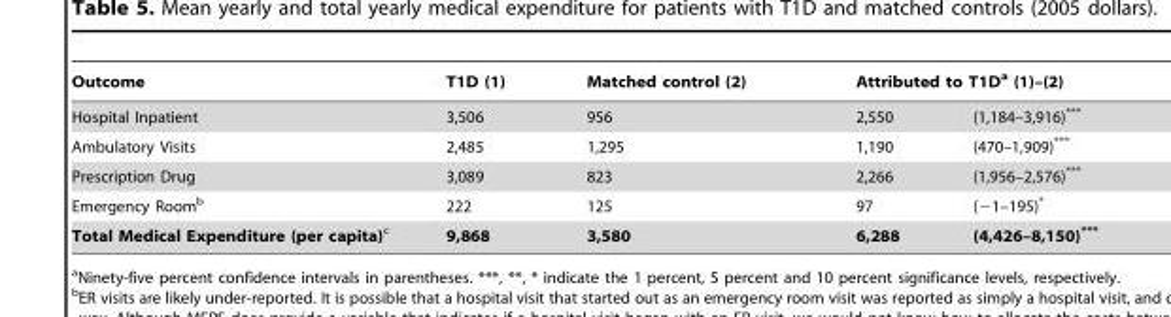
<table><thead><tr><td rowspan="2">Outcome Hospital Inpatient</td><td rowspan="2">T1D (1) 3,506</td><td rowspan="2">Matched control (2) 956</td><td colspan="2">Attributed to T1D<sup>a</sup> (1)–(2)</td></tr><tr><td>2,550</td><td>(1,184–3,916)***</td></tr></thead><tbody><tr><td>Ambulatory Visits</td><td>2,485</td><td>1,295</td><td>1,190</td><td>(470–1,909)***</td></tr><tr><td>Prescription Drug</td><td>3,089</td><td>823</td><td>2,266</td><td>(1,956–2,576)***</td></tr><tr><td>Emergency Room<sup>b</sup></td><td>222</td><td>125</td><td>97</td><td>(−1–195)*</td></tr><tr><td>Total Medical Expenditure (per capita)c</td><td>9,868</td><td>3,580</td><td>6,288</td><td>(4,426–8,150)***</td></tr></tbody></table>